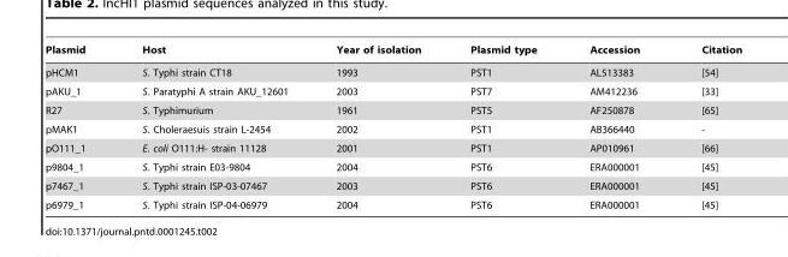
<table><thead><tr><td>Plasmid</td><td>Host</td><td>Year of isolation</td><td>Plasmid type</td><td>Accession</td><td>Citation</td></tr></thead><tbody><tr><td>pHCM1</td><td>S. Typhi strain CT18</td><td>1993</td><td>PST1</td><td>AL513383</td><td>[54]</td></tr><tr><td>pAKU_1</td><td>S. Paratyphi A strain AKU_12601</td><td>2003</td><td>PST7</td><td>AM412236</td><td>[33]</td></tr><tr><td>R27</td><td>S. Typhimurium</td><td>1961</td><td>PST5</td><td>AF250878</td><td>[65]</td></tr><tr><td>pMAK1</td><td>S. Choleraesuis strain L-2454</td><td>2002</td><td>PST1</td><td>AB366440</td><td>-</td></tr><tr><td>pO111_1</td><td>E. coli O111:H- strain 11128</td><td>2001</td><td>PST1</td><td>AP010961</td><td>[66]</td></tr><tr><td>p9804_1</td><td>S. Typhi strain E03-9804</td><td>2004</td><td>PST6</td><td>ERA000001</td><td>[45]</td></tr><tr><td>p7467_1</td><td>S. Typhi strain ISP-03-07467</td><td>2003</td><td>PST6</td><td>ERA000001</td><td>[45]</td></tr><tr><td>p6979_1</td><td>S. Typhi strain ISP-04-06979</td><td>2004</td><td>PST6</td><td>ERA000001</td><td>[45]</td></tr></tbody></table>